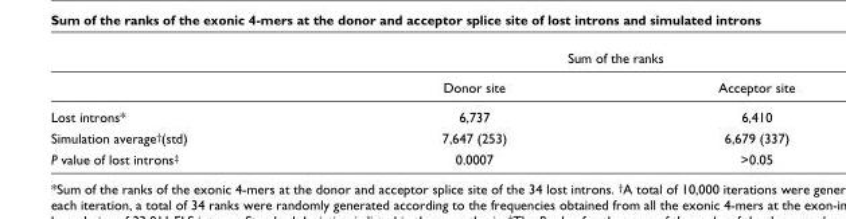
<table><thead><tr><td rowspan="2"></td><td colspan="2">Sum of the ranks</td></tr><tr><td>Donor site</td><td>Acceptor site</td></tr></thead><tbody><tr><td>Lost introns*</td><td>6,737</td><td>6,410</td></tr><tr><td>Simulation average†(std)</td><td>7,647 (253)</td><td>6,679 (337)</td></tr><tr><td>P value of lost introns‡</td><td>0.0007</td><td>&gt;0.05</td></tr></tbody></table>